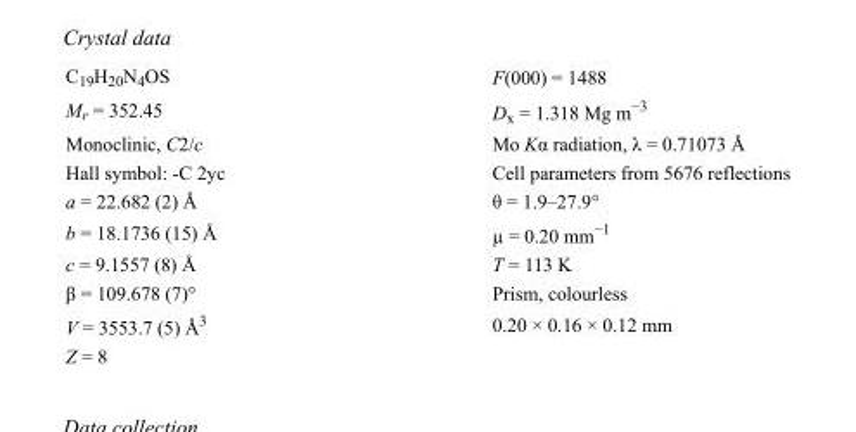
<table><tbody><tr><td>C<sub>19</sub>H<sub>20</sub>N<sub>4</sub>OS</td><td>F(000) = 1488</td></tr><tr><td>M<sub>r</sub> = 352.45</td><td>D<sub>x</sub> = 1.318 Mg m<sup>−3</sup></td></tr><tr><td>Monoclinic, C2/c</td><td>Mo Kα radiation, λ = 0.71073 Å</td></tr><tr><td>Hall symbol: -C 2yc</td><td>Cell parameters from 5676 reflections</td></tr><tr><td>a = 22.682 (2) Å</td><td>θ = 1.9–27.9°</td></tr><tr><td>b = 18.1736 (15) Å</td><td>µ = 0.20 mm<sup>−1</sup></td></tr><tr><td>c = 9.1557 (8) Å</td><td>T = 113 K</td></tr><tr><td>β = 109.678 (7)°</td><td>Prism, colourless</td></tr><tr><td>V = 3553.7 (5) Å<sup>3</sup></td><td>0.20 × 0.16 × 0.12 mm</td></tr><tr><td>Z = 8</td><td></td></tr></tbody></table>